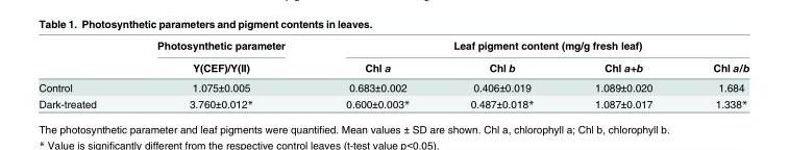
<table><thead><tr><td rowspan="2"></td><td rowspan="2">Photosynthetic parameter Y(CEF)/Y(II)</td><td colspan="4">Leaf pigment content (mg/g fresh leaf)</td></tr><tr><td>Chl a</td><td>Chl b</td><td>Chl a+b</td><td>Chl a/b</td></tr></thead><tbody><tr><td>Control</td><td>1.075±0.005</td><td>0.683±0.002</td><td>0.406±0.019</td><td>1.089±0.020</td><td>1.684</td></tr><tr><td>Dark-treated</td><td>3.760±0.012*</td><td>0.600±0.003*</td><td>0.487±0.018*</td><td>1.087±0.017</td><td>1.338*</td></tr></tbody></table>